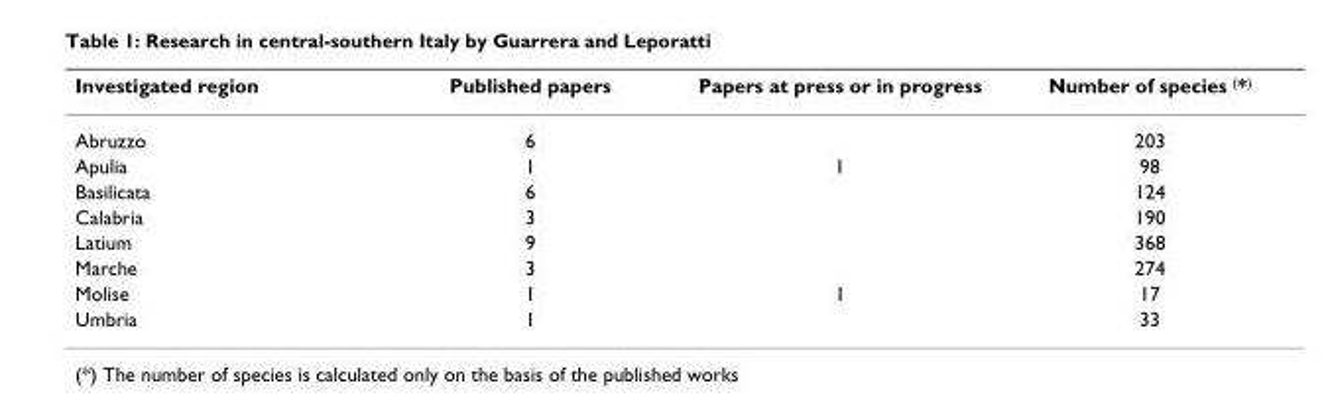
<table><thead><tr><td>Investigated region</td><td>Published papers</td><td>Papers at press or in progress</td><td>Number of species <sup>(</sup>*<sup>)</sup></td></tr></thead><tbody><tr><td>Abruzzo</td><td>6</td><td></td><td>203</td></tr><tr><td>Apulia</td><td>1</td><td>1</td><td>98</td></tr><tr><td>Basilicata</td><td>6</td><td></td><td>124</td></tr><tr><td>Calabria</td><td>3</td><td></td><td>190</td></tr><tr><td>Latium</td><td>9</td><td></td><td>368</td></tr><tr><td>Marche</td><td>3</td><td></td><td>274</td></tr><tr><td>Molise</td><td>1</td><td>1</td><td>17</td></tr><tr><td>Umbria</td><td>1</td><td></td><td>33</td></tr></tbody></table>